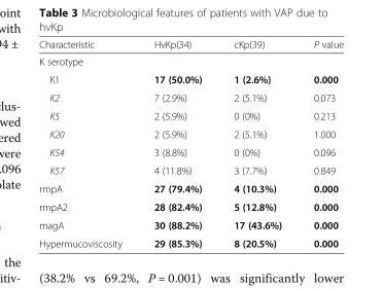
<table><thead><tr><td>Characteristic</td><td>HvKp(34)</td><td>cKp(39)</td><td>P value</td></tr></thead><tbody><tr><td colspan="4">K serotype</td></tr><tr><td>K1</td><td>17 (50.0%)</td><td>1 (2.6%)</td><td>0.000</td></tr><tr><td>K2</td><td>7 (2.9%)</td><td>2 (5.1%)</td><td>0.073</td></tr><tr><td>K5</td><td>2 (5.9%)</td><td>0 (0%)</td><td>0.213</td></tr><tr><td>K20</td><td>2 (5.9%)</td><td>2 (5.1%)</td><td>1.000</td></tr><tr><td>K54</td><td>3 (8.8%)</td><td>0 (0%)</td><td>0.096</td></tr><tr><td>K57</td><td>4 (11.8%)</td><td>3 (7.7%)</td><td>0.849</td></tr><tr><td>rmpA</td><td>27 (79.4%)</td><td>4 (10.3%)</td><td>0.000</td></tr><tr><td>rmpA2</td><td>28 (82.4%)</td><td>5 (12.8%)</td><td>0.000</td></tr><tr><td>magA</td><td>30 (88.2%)</td><td>17 (43.6%)</td><td>0.000</td></tr><tr><td>Hypermucoviscosity</td><td>29 (85.3%)</td><td>8 (20.5%)</td><td>0.000</td></tr></tbody></table>